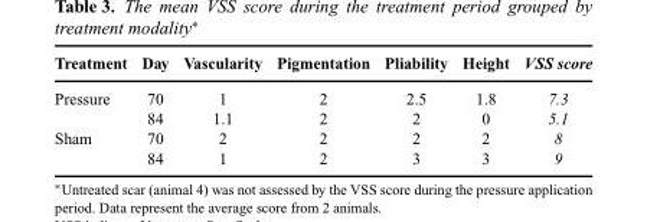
<table><thead><tr><td>Treatment</td><td>Day</td><td>Vascularity</td><td>Pigmentation</td><td>Pliability</td><td>Height</td><td>VSS score</td></tr></thead><tbody><tr><td rowspan="2">Pressure</td><td>70</td><td>1</td><td>2</td><td>2.5</td><td>1.8</td><td>7.3</td></tr><tr><td>84</td><td>1.1</td><td>2</td><td>2</td><td>0</td><td>5.1</td></tr><tr><td rowspan="2">Sham</td><td>70</td><td>2</td><td>2</td><td>2</td><td>2</td><td>8</td></tr><tr><td>84</td><td>1</td><td>2</td><td>3</td><td>3</td><td>9</td></tr></tbody></table>